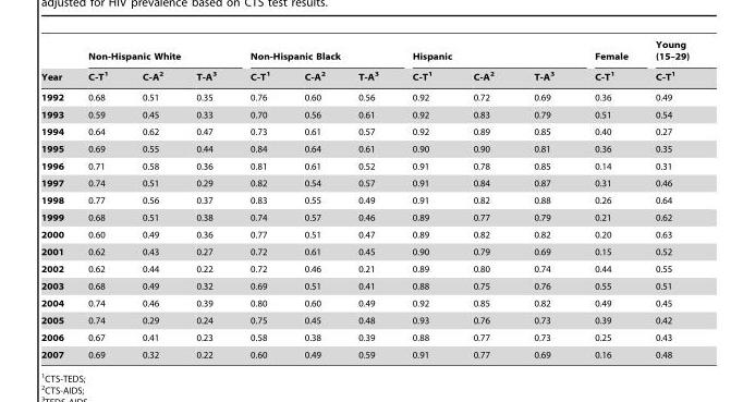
<table><thead><tr><td rowspan="2">Year</td><td colspan="3">Non-Hispanic White</td><td colspan="3">Non-Hispanic Black</td><td colspan="3">Hispanic</td><td rowspan="2">Female C-T<sup>1</sup></td><td rowspan="2">Young (15–29) C-T<sup>1</sup></td></tr><tr><td>C-T<sup>1</sup></td><td>C-A<sup>2</sup></td><td>T-A<sup>3</sup></td><td>C-T<sup>1</sup></td><td>C-A<sup>2</sup></td><td>T-A<sup>3</sup></td><td>C-T<sup>1</sup></td><td>C-A<sup>2</sup></td><td>T-A<sup>3</sup></td></tr></thead><tbody><tr><td>1992</td><td>0.68</td><td>0.51</td><td>0.35</td><td>0.76</td><td>0.60</td><td>0.56</td><td>0.92</td><td>0.72</td><td>0.69</td><td>0.36</td><td>0.49</td></tr><tr><td>1993</td><td>0.59</td><td>0.45</td><td>0.33</td><td>0.70</td><td>0.56</td><td>0.61</td><td>0.92</td><td>0.83</td><td>0.79</td><td>0.51</td><td>0.54</td></tr><tr><td>1994</td><td>0.64</td><td>0.62</td><td>0.47</td><td>0.73</td><td>0.61</td><td>0.57</td><td>0.92</td><td>0.89</td><td>0.85</td><td>0.40</td><td>0.27</td></tr><tr><td>1995</td><td>0.69</td><td>0.55</td><td>0.44</td><td>0.84</td><td>0.64</td><td>0.61</td><td>0.90</td><td>0.90</td><td>0.81</td><td>0.36</td><td>0.35</td></tr><tr><td>1996</td><td>0.71</td><td>0.58</td><td>0.36</td><td>0.81</td><td>0.61</td><td>0.52</td><td>0.91</td><td>0.78</td><td>0.85</td><td>0.14</td><td>0.31</td></tr><tr><td>1997</td><td>0.74</td><td>0.51</td><td>0.29</td><td>0.82</td><td>0.54</td><td>0.57</td><td>0.91</td><td>0.84</td><td>0.87</td><td>0.31</td><td>0.46</td></tr><tr><td>1998</td><td>0.77</td><td>0.56</td><td>0.37</td><td>0.83</td><td>0.55</td><td>0.49</td><td>0.91</td><td>0.82</td><td>0.88</td><td>0.26</td><td>0.64</td></tr><tr><td>1999</td><td>0.68</td><td>0.51</td><td>0.38</td><td>0.74</td><td>0.57</td><td>0.46</td><td>0.89</td><td>0.77</td><td>0.79</td><td>0.21</td><td>0.62</td></tr><tr><td>2000</td><td>0.60</td><td>0.49</td><td>0.36</td><td>0.77</td><td>0.51</td><td>0.47</td><td>0.89</td><td>0.82</td><td>0.82</td><td>0.20</td><td>0.63</td></tr><tr><td>2001</td><td>0.62</td><td>0.43</td><td>0.27</td><td>0.72</td><td>0.61</td><td>0.45</td><td>0.90</td><td>0.79</td><td>0.69</td><td>0.15</td><td>0.52</td></tr><tr><td>2002</td><td>0.62</td><td>0.44</td><td>0.22</td><td>0.72</td><td>0.46</td><td>0.21</td><td>0.89</td><td>0.80</td><td>0.74</td><td>0.44</td><td>0.55</td></tr><tr><td>2003</td><td>0.68</td><td>0.49</td><td>0.32</td><td>0.69</td><td>0.51</td><td>0.41</td><td>0.88</td><td>0.75</td><td>0.76</td><td>0.55</td><td>0.51</td></tr><tr><td>2004</td><td>0.74</td><td>0.46</td><td>0.39</td><td>0.80</td><td>0.60</td><td>0.49</td><td>0.92</td><td>0.85</td><td>0.82</td><td>0.49</td><td>0.45</td></tr><tr><td>2005</td><td>0.74</td><td>0.29</td><td>0.24</td><td>0.75</td><td>0.45</td><td>0.48</td><td>0.93</td><td>0.76</td><td>0.73</td><td>0.39</td><td>0.42</td></tr><tr><td>2006</td><td>0.67</td><td>0.41</td><td>0.23</td><td>0.58</td><td>0.38</td><td>0.39</td><td>0.88</td><td>0.77</td><td>0.73</td><td>0.25</td><td>0.43</td></tr><tr><td>2007</td><td>0.69</td><td>0.32</td><td>0.22</td><td>0.60</td><td>0.49</td><td>0.59</td><td>0.91</td><td>0.77</td><td>0.69</td><td>0.16</td><td>0.48</td></tr></tbody></table>